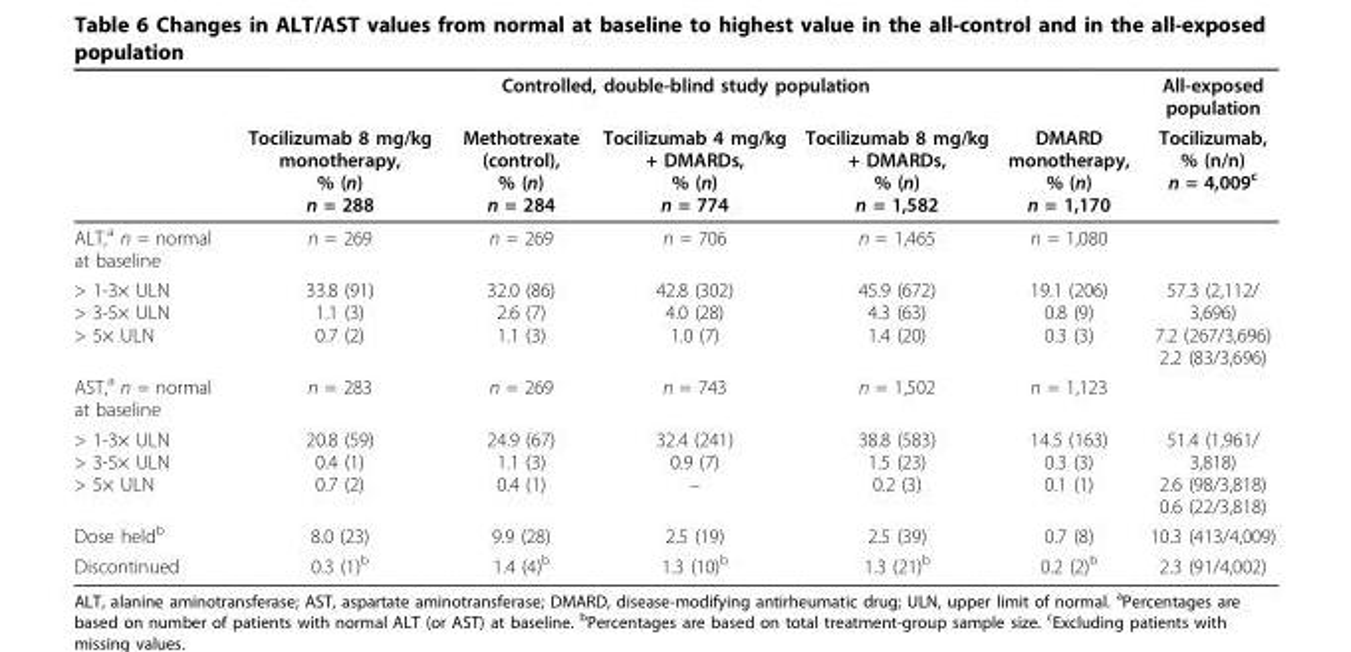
<table><thead><tr><td rowspan="2"></td><td colspan="5">Controlled, double-blind study population</td><td rowspan="2">All-exposed population Tocilizumab, % (n/n) n = 4,009<sup>c</sup></td></tr><tr><td>Tocilizumab 8 mg/kg monotherapy, % (n) n = 288</td><td>Methotrexate (control), % (n) n = 284</td><td>Tocilizumab 4 mg/kg + DMARDs, % (n) n = 774</td><td>Tocilizumab 8 mg/kg + DMARDs, % (n) n = 1,582</td><td>DMARD monotherapy, % (n) n = 1,170</td></tr></thead><tbody><tr><td>ALT,<sup>a</sup> n = normal at baseline</td><td>n = 269</td><td>n = 269</td><td>n = 706</td><td>n = 1,465</td><td>n = 1,080</td><td></td></tr><tr><td>&gt; 1-3× ULN &gt; 3-5× ULN &gt; 5× ULN</td><td>33.8 (91) 1.1 (3) 0.7 (2)</td><td>32.0 (86) 2.6 (7) 1.1 (3)</td><td>42.8 (302) 4.0 (28) 1.0 (7)</td><td>45.9 (672) 4.3 (63) 1.4 (20)</td><td>19.1 (206) 0.8 (9) 0.3 (3)</td><td>57.3 (2,112/ 3,696) 7.2 (267/3,696) 2.2 (83/3,696)</td></tr><tr><td>AST,<sup>a</sup> n = normal at baseline</td><td>n = 283</td><td>n = 269</td><td>n = 743</td><td>n = 1,502</td><td>n = 1,123</td><td></td></tr><tr><td>&gt; 1-3× ULN &gt; 3-5× ULN &gt; 5× ULN</td><td>20.8 (59) 0.4 (1) 0.7 (2)</td><td>24.9 (67) 1.1 (3) 0.4 (1)</td><td>32.4 (241) 0.9 (7) –</td><td>38.8 (583) 1.5 (23) 0.2 (3)</td><td>14.5 (163) 0.3 (3) 0.1 (1)</td><td>51.4 (1,961/ 3,818) 2.6 (98/3,818) 0.6 (22/3,818)</td></tr><tr><td>Dose held<sup>b</sup></td><td>8.0 (23)</td><td>9.9 (28)</td><td>2.5 (19)</td><td>2.5 (39)</td><td>0.7 (8)</td><td>10.3 (413/4,009)</td></tr><tr><td>Discontinued</td><td>0.3 (1)<sup>b</sup></td><td>1.4 (4)<sup>b</sup></td><td>1.3 (10)<sup>b</sup></td><td>1.3 (21)<sup>b</sup></td><td>0.2 (2)<sup>b</sup></td><td>2.3 (91/4,002)</td></tr></tbody></table>